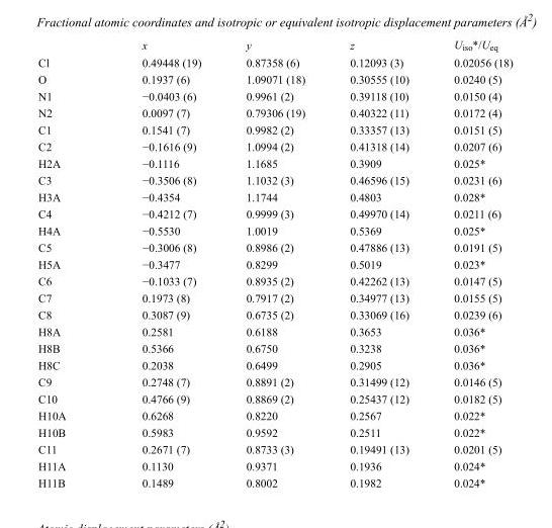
<table><thead><tr><td></td><td>x</td><td>y</td><td>z</td><td>U<sub>iso</sub>*/U<sub>eq</sub></td></tr></thead><tbody><tr><td>Cl</td><td>0.49448 (19)</td><td>0.87358 (6)</td><td>0.12093 (3)</td><td>0.02056 (18)</td></tr><tr><td>O</td><td>0.1937 (6)</td><td>1.09071 (18)</td><td>0.30555 (10)</td><td>0.0240 (5)</td></tr><tr><td>N1</td><td>−0.0403 (6)</td><td>0.9961 (2)</td><td>0.39118 (10)</td><td>0.0150 (4)</td></tr><tr><td>N2</td><td>0.0097 (7)</td><td>0.79306 (19)</td><td>0.40322 (11)</td><td>0.0172 (4)</td></tr><tr><td>C1</td><td>0.1541 (7)</td><td>0.9982 (2)</td><td>0.33357 (13)</td><td>0.0151 (5)</td></tr><tr><td>C2</td><td>−0.1616 (9)</td><td>1.0994 (2)</td><td>0.41318 (14)</td><td>0.0207 (6)</td></tr><tr><td>H2A</td><td>−0.1116</td><td>1.1685</td><td>0.3909</td><td>0.025*</td></tr><tr><td>C3</td><td>−0.3506 (8)</td><td>1.1032 (3)</td><td>0.46596 (15)</td><td>0.0231 (6)</td></tr><tr><td>H3A</td><td>−0.4354</td><td>1.1744</td><td>0.4803</td><td>0.028*</td></tr><tr><td>C4</td><td>−0.4212 (7)</td><td>0.9999 (3)</td><td>0.49970 (14)</td><td>0.0211 (6)</td></tr><tr><td>H4A</td><td>−0.5530</td><td>1.0019</td><td>0.5369</td><td>0.025*</td></tr><tr><td>C5</td><td>−0.3006 (8)</td><td>0.8986 (2)</td><td>0.47886 (13)</td><td>0.0191 (5)</td></tr><tr><td>H5A</td><td>−0.3477</td><td>0.8299</td><td>0.5019</td><td>0.023*</td></tr><tr><td>C6</td><td>−0.1033 (7)</td><td>0.8935 (2)</td><td>0.42262 (13)</td><td>0.0147 (5)</td></tr><tr><td>C7</td><td>0.1973 (8)</td><td>0.7917 (2)</td><td>0.34977 (13)</td><td>0.0155 (5)</td></tr><tr><td>C8</td><td>0.3087 (9)</td><td>0.6735 (2)</td><td>0.33069 (16)</td><td>0.0239 (6)</td></tr><tr><td>H8A</td><td>0.2581</td><td>0.6188</td><td>0.3653</td><td>0.036*</td></tr><tr><td>H8B</td><td>0.5366</td><td>0.6750</td><td>0.3238</td><td>0.036*</td></tr><tr><td>H8C</td><td>0.2038</td><td>0.6499</td><td>0.2905</td><td>0.036*</td></tr><tr><td>C9</td><td>0.2748 (7)</td><td>0.8891 (2)</td><td>0.31499 (12)</td><td>0.0146 (5)</td></tr><tr><td>C10</td><td>0.4766 (9)</td><td>0.8869 (2)</td><td>0.25437 (12)</td><td>0.0182 (5)</td></tr><tr><td>H10A</td><td>0.6268</td><td>0.8220</td><td>0.2567</td><td>0.022*</td></tr><tr><td>H10B</td><td>0.5983</td><td>0.9592</td><td>0.2511</td><td>0.022*</td></tr><tr><td>C11</td><td>0.2671 (7)</td><td>0.8733 (3)</td><td>0.19491 (13)</td><td>0.0201 (5)</td></tr><tr><td>H11A</td><td>0.1130</td><td>0.9371</td><td>0.1936</td><td>0.024*</td></tr><tr><td>H11B</td><td>0.1489</td><td>0.8002</td><td>0.1982</td><td>0.024*</td></tr></tbody></table>